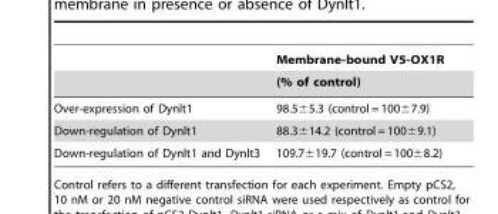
<table><thead><tr><td rowspan="2"></td><td rowspan="2">Membrane-bound V5-OX1R (% of control)</td></tr><tr></tr></thead><tbody><tr><td>Over-expression of Dynlt1</td><td>98.5±5.3 (control = 100±7.9)</td></tr><tr><td>Down-regulation of Dynlt1</td><td>88.3±14.2 (control = 100±9.1)</td></tr><tr><td>Down-regulation of Dynlt1 and Dynlt3</td><td>109.7±19.7 (control = 100±8.2)</td></tr></tbody></table>